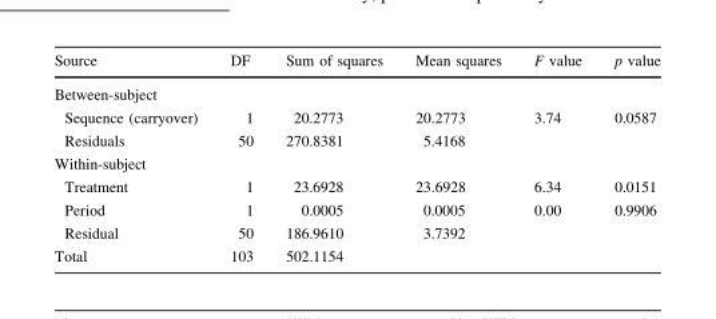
<table><thead><tr><td>Source</td><td>DF</td><td>Sum of squares</td><td>Mean squares</td><td>F value</td><td>p value</td></tr></thead><tbody><tr><td colspan="6">Between-subject</td></tr><tr><td>Sequence (carryover)</td><td>1</td><td>20.2773</td><td>20.2773</td><td>3.74</td><td>0.0587</td></tr><tr><td>Residuals</td><td>50</td><td>270.8381</td><td>5.4168</td><td></td><td></td></tr><tr><td colspan="6">Within-subject</td></tr><tr><td>Treatment</td><td>1</td><td>23.6928</td><td>23.6928</td><td>6.34</td><td>0.0151</td></tr><tr><td>Period</td><td>1</td><td>0.0005</td><td>0.0005</td><td>0.00</td><td>0.9906</td></tr><tr><td>Residual</td><td>50</td><td>186.9610</td><td>3.7392</td><td></td><td></td></tr><tr><td>Total</td><td>103</td><td>502.1154</td><td></td><td></td><td></td></tr></tbody></table>